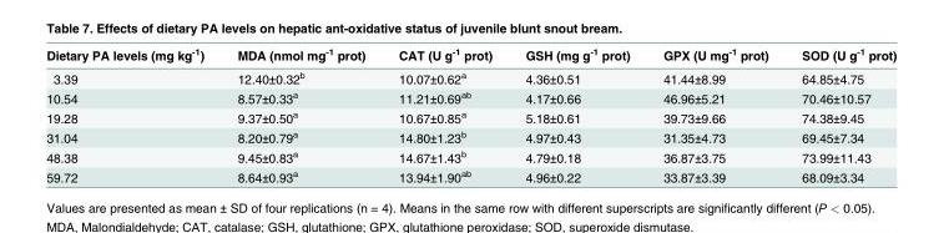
<table><thead><tr><td>Dietary PA levels (mg kg<sup>-1</sup>)</td><td>MDA (nmol mg<sup>-1</sup> prot)</td><td>CAT (U g<sup>-1</sup> prot)</td><td>GSH (mg g<sup>-1</sup> prot)</td><td>GPX (U mg<sup>-1</sup> prot)</td><td>SOD (U g<sup>-1</sup> prot)</td></tr></thead><tbody><tr><td>3.39</td><td>12.40±0.32<sup>b</sup></td><td>10.07±0.62<sup>a</sup></td><td>4.36±0.51</td><td>41.44±8.99</td><td>64.85±4.75</td></tr><tr><td>10.54</td><td>8.57±0.33<sup>a</sup></td><td>11.21±0.69<sup>ab</sup></td><td>4.17±0.66</td><td>46.96±5.21</td><td>70.46±10.57</td></tr><tr><td>19.28</td><td>9.37±0.50<sup>a</sup></td><td>10.67±0.85<sup>a</sup></td><td>5.18±0.61</td><td>39.73±9.66</td><td>74.38±9.45</td></tr><tr><td>31.04</td><td>8.20±0.79<sup>a</sup></td><td>14.80±1.23<sup>b</sup></td><td>4.97±0.43</td><td>31.35±4.73</td><td>69.45±7.34</td></tr><tr><td>48.38</td><td>9.45±0.83<sup>a</sup></td><td>14.67±1.43<sup>b</sup></td><td>4.79±0.18</td><td>36.87±3.75</td><td>73.99±11.43</td></tr><tr><td>59.72</td><td>8.64±0.93<sup>a</sup></td><td>13.94±1.90<sup>ab</sup></td><td>4.96±0.22</td><td>33.87±3.39</td><td>68.09±3.34</td></tr></tbody></table>